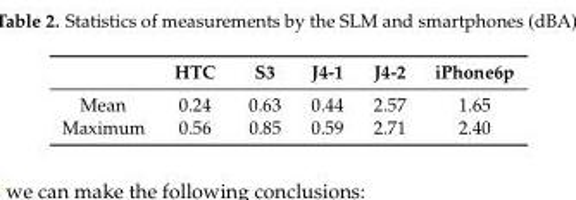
<table><thead><tr><td></td><td>HTC</td><td>S3</td><td>J4-1</td><td>J4-2</td><td>iPhone6p</td></tr></thead><tbody><tr><td>Mean</td><td>0.24</td><td>0.63</td><td>0.44</td><td>2.57</td><td>1.65</td></tr><tr><td>Maximum</td><td>0.56</td><td>0.85</td><td>0.59</td><td>2.71</td><td>2.40</td></tr></tbody></table>